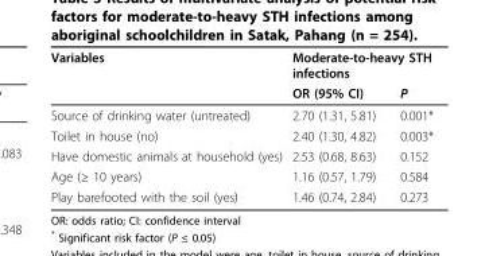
<table><thead><tr><td rowspan="2">Variables</td><td colspan="2">Moderate-to-heavy STH infections</td></tr><tr><td>OR (95% CI)</td><td>P</td></tr></thead><tbody><tr><td>Source of drinking water (untreated)</td><td>2.70 (1.31, 5.81)</td><td>0.001*</td></tr><tr><td>Toilet in house (no)</td><td>2.40 (1.30, 4.82)</td><td>0.003*</td></tr><tr><td>Have domestic animals at household (yes)</td><td>2.53 (0.68, 8.63)</td><td>0.152</td></tr><tr><td>Age (≥ 10 years)</td><td>1.16 (0.57, 1.79)</td><td>0.584</td></tr><tr><td>Play barefooted with the soil (yes)</td><td>1.46 (0.74, 2.84)</td><td>0.273</td></tr></tbody></table>